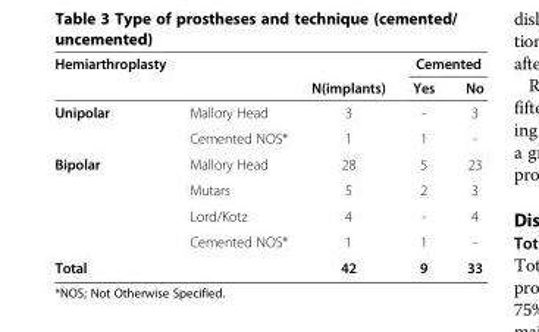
<table><thead><tr><td rowspan="2">Hemiarthroplasty</td><td rowspan="2"></td><td rowspan="2">N(implants)</td><td colspan="2">Cemented</td></tr><tr><td>Yes</td><td>No</td></tr></thead><tbody><tr><td rowspan="2">Unipolar</td><td>Mallory Head</td><td>3</td><td>-</td><td>3</td></tr><tr><td>Cemented NOS*</td><td>1</td><td>1</td><td>-</td></tr><tr><td rowspan="4">Bipolar</td><td>Mallory Head</td><td>28</td><td>5</td><td>23</td></tr><tr><td>Mutars</td><td>5</td><td>2</td><td>3</td></tr><tr><td>Lord/Kotz</td><td>4</td><td>-</td><td>4</td></tr><tr><td>Cemented NOS*</td><td>1</td><td>1</td><td>-</td></tr><tr><td colspan="2">Total</td><td>42</td><td>9</td><td>33</td></tr></tbody></table>